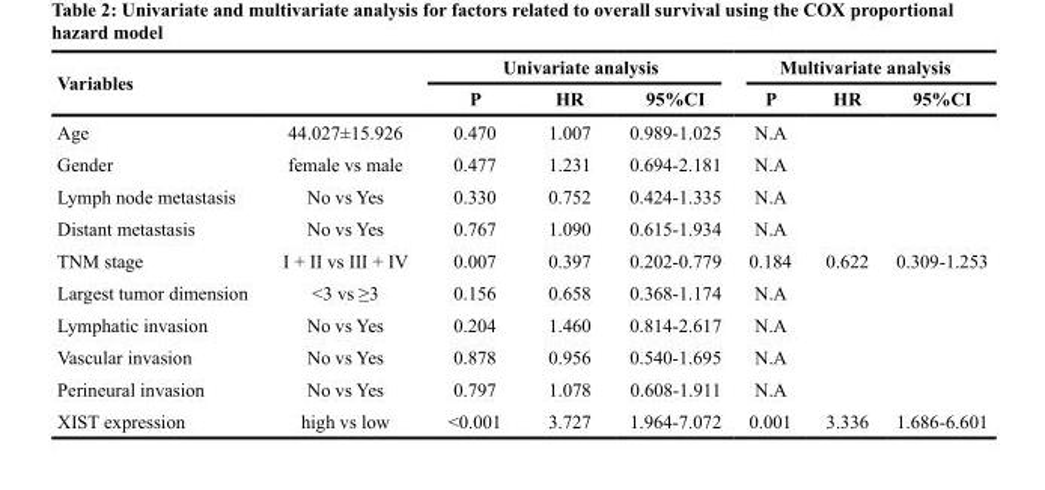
<table><thead><tr><td rowspan="2" colspan="2">Variables</td><td colspan="3">Univariate analysis</td><td colspan="3">Multivariate analysis</td></tr><tr><td rowspan="2">P 0.470</td><td rowspan="2">HR 1.007</td><td rowspan="2">95%CI 0.989-1.025</td><td rowspan="2">P N.A</td><td rowspan="2">HR</td><td rowspan="2">95%CI</td></tr><tr><td>Age</td><td>44.027±15.926</td></tr></thead><tbody><tr><td>Gender</td><td>female vs male</td><td>0.477</td><td>1.231</td><td>0.694-2.181</td><td>N.A</td><td></td><td></td></tr><tr><td>Lymph node metastasis</td><td>No vs Yes</td><td>0.330</td><td>0.752</td><td>0.424-1.335</td><td>N.A</td><td></td><td></td></tr><tr><td>Distant metastasis</td><td>No vs Yes</td><td>0.767</td><td>1.090</td><td>0.615-1.934</td><td>N.A</td><td></td><td></td></tr><tr><td>TNM stage</td><td>I + II vs III + IV</td><td>0.007</td><td>0.397</td><td>0.202-0.779</td><td>0.184</td><td>0.622</td><td>0.309-1.253</td></tr><tr><td>Largest tumor dimension</td><td>&lt;3 vs ≥3</td><td>0.156</td><td>0.658</td><td>0.368-1.174</td><td>N.A</td><td></td><td></td></tr><tr><td>Lymphatic invasion</td><td>No vs Yes</td><td>0.204</td><td>1.460</td><td>0.814-2.617</td><td>N.A</td><td></td><td></td></tr><tr><td>Vascular invasion</td><td>No vs Yes</td><td>0.878</td><td>0.956</td><td>0.540-1.695</td><td>N.A</td><td></td><td></td></tr><tr><td>Perineural invasion</td><td>No vs Yes</td><td>0.797</td><td>1.078</td><td>0.608-1.911</td><td>N.A</td><td></td><td></td></tr><tr><td>XIST expression</td><td>high vs low</td><td>&lt;0.001</td><td>3.727</td><td>1.964-7.072</td><td>0.001</td><td>3.336</td><td>1.686-6.601</td></tr></tbody></table>